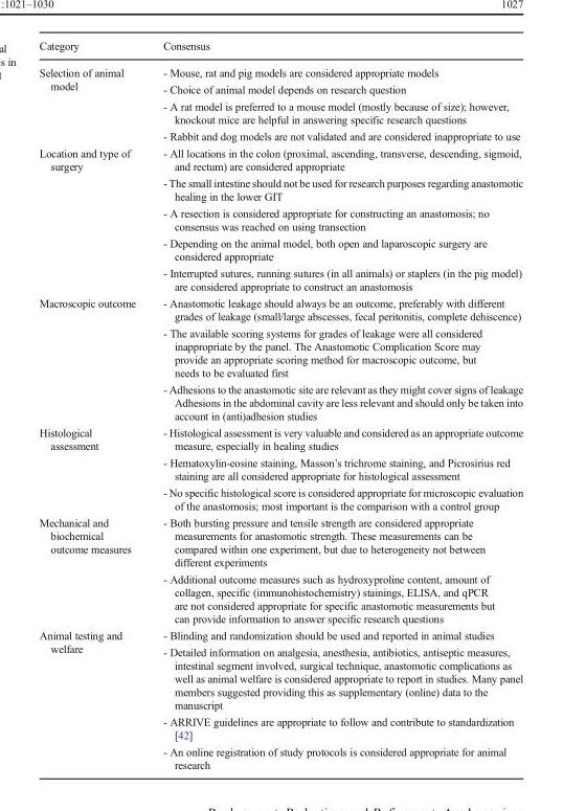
<table><thead><tr><td>Category</td><td>Consensus</td></tr></thead><tbody><tr><td rowspan="4">Selection of animal model</td><td>- Mouse, rat and pig models are considered appropriate models</td></tr><tr><td>- Choice of animal model depends on research question</td></tr><tr><td>- A rat model is preferred to a mouse model (mostly because of size); however, knockout mice are helpful in answering specific research questions</td></tr><tr><td>- Rabbit and dog models are not validated and are considered inappropriate to use</td></tr><tr><td rowspan="5">Location and type of surgery</td><td>- All locations in the colon (proximal, ascending, transverse, descending, sigmoid, and rectum) are considered appropriate</td></tr><tr><td>- The small intestine should not be used for research purposes regarding anastomotic healing in the lower GIT</td></tr><tr><td>- A resection is considered appropriate for constructing an anastomosis; no consensus was reached on using transection</td></tr><tr><td>- Depending on the animal model, both open and laparoscopic surgery are considered appropriate</td></tr><tr><td>- Interrupted sutures, running sutures (in all animals) or staplers (in the pig model) are considered appropriate to construct an anastomosis</td></tr><tr><td rowspan="3">Macroscopic outcome</td><td>- Anastomotic leakage should always be an outcome, preferably with different grades of leakage (small/large abscesses, fecal peritonitis, complete dehiscence)</td></tr><tr><td>- The available scoring systems for grades of leakage were all considered inappropriate by the panel. The Anastomotic Complication Score may provide an appropriate scoring method for macroscopic outcome, but needs to be evaluated first</td></tr><tr><td>- Adhesions to the anastomotic site are relevant as they might cover signs of leakage Adhesions in the abdominal cavity are less relevant and should only be taken into account in (anti)adhesion studies</td></tr><tr><td rowspan="3">Histological assessment</td><td>- Histological assessment is very valuable and considered as an appropriate outcome measure, especially in healing studies</td></tr><tr><td>- Hematoxylin-eosine staining, Masson’s trichrome staining, and Picrosirius red staining are all considered appropriate for histological assessment</td></tr><tr><td>- No specific histological score is considered appropriate for microscopic evaluation of the anastomosis; most important is the comparison with a control group</td></tr><tr><td>Mechanical and biochemical outcome measures</td><td>- Both bursting pressure and tensile strength are considered appropriate measurements for anastomotic strength. These measurements can be compared within one experiment, but due to heterogeneity not between different experiments - Additional outcome measures such as hydroxyproline content, amount of collagen, specific (immunohistochemistry) stainings, ELISA, and qPCR are not considered appropriate for specific anastomotic measurements but can provide information to answer specific research questions</td></tr><tr><td rowspan="4">Animal testing and welfare</td><td>- Blinding and randomization should be used and reported in animal studies</td></tr><tr><td>- Detailed information on analgesia, anesthesia, antibiotics, antiseptic measures, intestinal segment involved, surgical technique, anastomotic complications as well as animal welfare is considered appropriate to report in studies. Many panel members suggested providing this as supplementary (online) data to the manuscript</td></tr><tr><td>- ARRIVE guidelines are appropriate to follow and contribute to standardization [42]</td></tr><tr><td>- An online registration of study protocols is considered appropriate for animal research</td></tr></tbody></table>